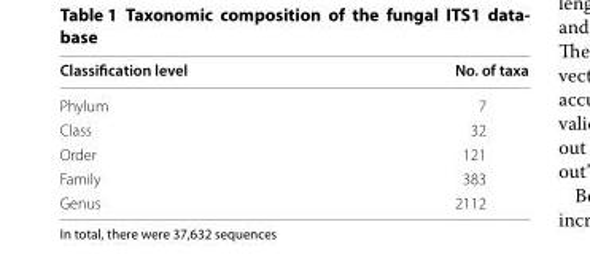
<table><thead><tr><td>Classification level</td><td>No. of taxa</td></tr></thead><tbody><tr><td>Phylum</td><td>7</td></tr><tr><td>Class</td><td>32</td></tr><tr><td>Order</td><td>121</td></tr><tr><td>Family</td><td>383</td></tr><tr><td>Genus</td><td>2112</td></tr></tbody></table>